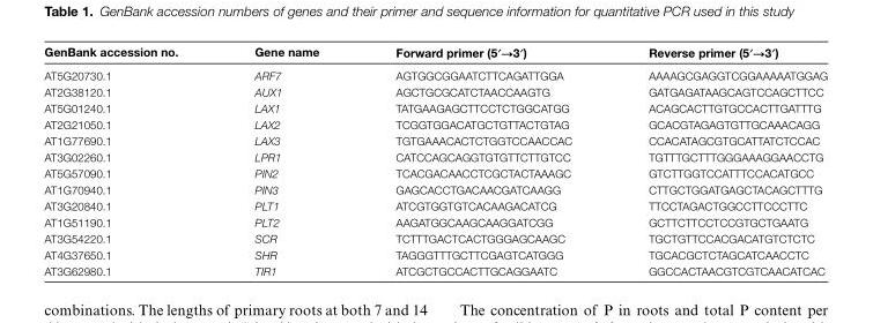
<table><thead><tr><td>GenBank accession no.</td><td>Gene name</td><td>Forward primer (5′→3′)</td><td>Reverse primer (5′→3′)</td></tr></thead><tbody><tr><td>AT5G20730.1</td><td>ARF7</td><td>AGTGGCGGAATCTTCAGATTGGA</td><td>AAAAGCGAGGTCGGAAAAATGGAG</td></tr><tr><td>AT2G38120.1</td><td>AUX1</td><td>AGCTGCGCATCTAACCAAGTG</td><td>GATGAGATAAGCAGTCCAGCTTCC</td></tr><tr><td>AT5G01240.1</td><td>LAX1</td><td>TATGAAGAGCTTCCTCTGGCATGG</td><td>ACAGCACTTGTGCCACTTGATTTG</td></tr><tr><td>AT2G21050.1</td><td>LAX2</td><td>TCGGTGGACATGCTGTTACTGTAG</td><td>GCACGTAGAGTGTTGCAAACAGG</td></tr><tr><td>AT1G77690.1</td><td>LAX3</td><td>TGTGAAACACTCTGGTCCAACCAC</td><td>CCACATAGCGTGCATTATCTCCAC</td></tr><tr><td>AT3G02260.1</td><td>LPR1</td><td>CATCCAGCAGGTGTGTTCTTGTCC</td><td>TGTTTGCTTTGGGAAAGGAACCTG</td></tr><tr><td>AT5G57090.1</td><td>PIN2</td><td>TCACGACAACCTCGCTACTAAAGC</td><td>GTCTTGGTCCATTTCCACATGCC</td></tr><tr><td>AT1G70940.1</td><td>PIN3</td><td>GAGCACCTGACAACGATCAAGG</td><td>CTTGCTGGATGAGCTACAGCTTTG</td></tr><tr><td>AT3G20840.1</td><td>PLT1</td><td>ATCGTGGTGTCACAAGACATCG</td><td>TTCCTAGACTGGCCTTCCCTTC</td></tr><tr><td>AT1G51190.1</td><td>PLT2</td><td>AAGATGGCAAGCAAGGATCGG</td><td>GCTTCTTCCTCCGTGCTGAATG</td></tr><tr><td>AT3G54220.1</td><td>SCR</td><td>TCTTTGACTCACTGGGAGCAAGC</td><td>TGCTGTTCCACGACATGTCTCTC</td></tr><tr><td>AT4G37650.1</td><td>SHR</td><td>TAGGGTTTGCTTCGAGTCATGGG</td><td>TGCACGCTCTAGCATCAACCTC</td></tr><tr><td>AT3G62980.1</td><td>TIR1</td><td>ATCGCTGCCACTTGCAGGAATC</td><td>GGCCACTAACGTCGTCAACATCAC</td></tr></tbody></table>